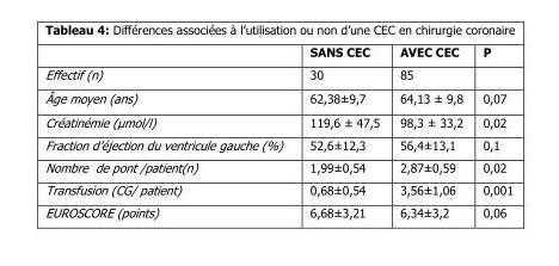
<table><thead><tr><td></td><td>SANS CEC</td><td>AVEC CEC</td><td>P</td></tr></thead><tbody><tr><td>Effectif (n)</td><td>30</td><td>85</td><td></td></tr><tr><td>Âge moyen (ans)</td><td>62,38±9,7</td><td>64,13 ± 9,8</td><td>0,07</td></tr><tr><td>Créatinémie (µmol/l)</td><td>119,6 ± 47,5</td><td>98,3 ± 33,2</td><td>0,02</td></tr><tr><td>Fraction d’éjection du ventricule gauche (%)</td><td>52,6±12,3</td><td>56,4±13,1</td><td>0,1</td></tr><tr><td>Nombre de pont /patient(n)</td><td>1,99±0,54</td><td>2,87±0,59</td><td>0,02</td></tr><tr><td>Transfusion (CG/ patient)</td><td>0,68±0,54</td><td>3,56±1,06</td><td>0,001</td></tr><tr><td>EUROSCORE (points)</td><td>6,68±3,21</td><td>6,34±3,2</td><td>0,06</td></tr></tbody></table>